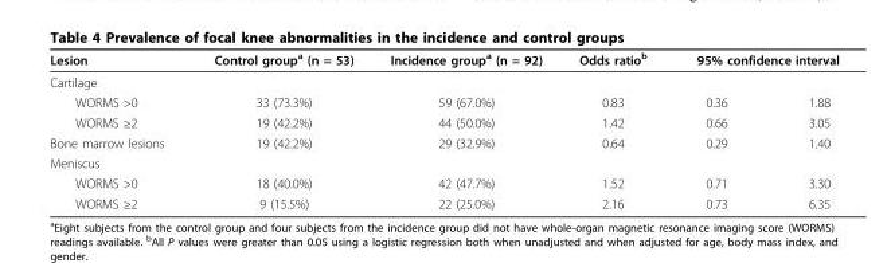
<table><thead><tr><td rowspan="2">Lesion Cartilage</td><td rowspan="2">Control group<sup>a</sup> (n = 53)</td><td rowspan="2">Incidence group<sup>a</sup> (n = 92)</td><td rowspan="2">Odds ratio<sup>b</sup></td><td colspan="2">95% confidence interval</td></tr><tr><td></td><td></td></tr></thead><tbody><tr><td>WORMS &gt;0</td><td>33 (73.3%)</td><td>59 (67.0%)</td><td>0.83</td><td>0.36</td><td>1.88</td></tr><tr><td>WORMS ≥2</td><td>19 (42.2%)</td><td>44 (50.0%)</td><td>1.42</td><td>0.66</td><td>3.05</td></tr><tr><td>Bone marrow lesions</td><td>19 (42.2%)</td><td>29 (32.9%)</td><td>0.64</td><td>0.29</td><td>1.40</td></tr><tr><td colspan="6">Meniscus</td></tr><tr><td>WORMS &gt;0</td><td>18 (40.0%)</td><td>42 (47.7%)</td><td>1.52</td><td>0.71</td><td>3.30</td></tr><tr><td>WORMS ≥2</td><td>9 (15.5%)</td><td>22 (25.0%)</td><td>2.16</td><td>0.73</td><td>6.35</td></tr></tbody></table>